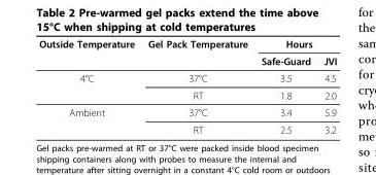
<table><thead><tr><td rowspan="2">Outside Temperature</td><td rowspan="2">Gel Pack Temperature</td><td colspan="2">Hours</td></tr><tr><td>Safe-Guard</td><td>JVI</td></tr></thead><tbody><tr><td rowspan="2">4°C</td><td>37°C</td><td>3.5</td><td>4.5</td></tr><tr><td>RT</td><td>1.8</td><td>2.0</td></tr><tr><td rowspan="2">Ambient</td><td>37°C</td><td>3.4</td><td>5.9</td></tr><tr><td>RT</td><td>2.5</td><td>3.2</td></tr></tbody></table>